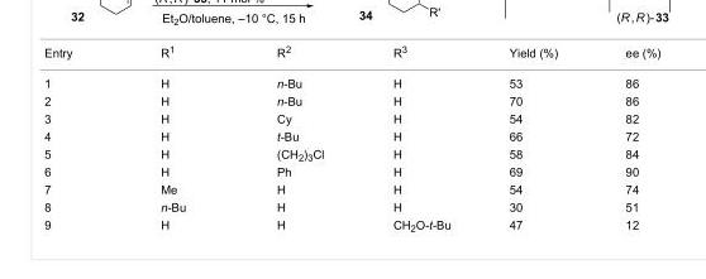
<table><tbody><tr><td>Entry</td><td>R<sup>1</sup></td><td>R<sup>2</sup></td><td>R<sup>3</sup></td><td>Yield (%)</td><td>ee (%)</td></tr><tr><td>1</td><td>H</td><td>n-Bu</td><td>H</td><td>53</td><td>86</td></tr><tr><td>2</td><td>H</td><td>n-Bu</td><td>H</td><td>70</td><td>86</td></tr><tr><td>3</td><td>H</td><td>Cy</td><td>H</td><td>54</td><td>82</td></tr><tr><td>4</td><td>H</td><td>t-Bu</td><td>H</td><td>66</td><td>72</td></tr><tr><td>5</td><td>H</td><td>(CH<sub>2</sub>)<sub>3</sub>Cl</td><td>H</td><td>58</td><td>84</td></tr><tr><td>6</td><td>H</td><td>Ph</td><td>H</td><td>69</td><td>90</td></tr><tr><td>7</td><td>Me</td><td>H</td><td>H</td><td>54</td><td>74</td></tr><tr><td>8</td><td>n-Bu</td><td>H</td><td>H</td><td>30</td><td>51</td></tr><tr><td>9</td><td>H</td><td>H</td><td>CH<sub>2</sub>O-t-Bu</td><td>47</td><td>12</td></tr></tbody></table>